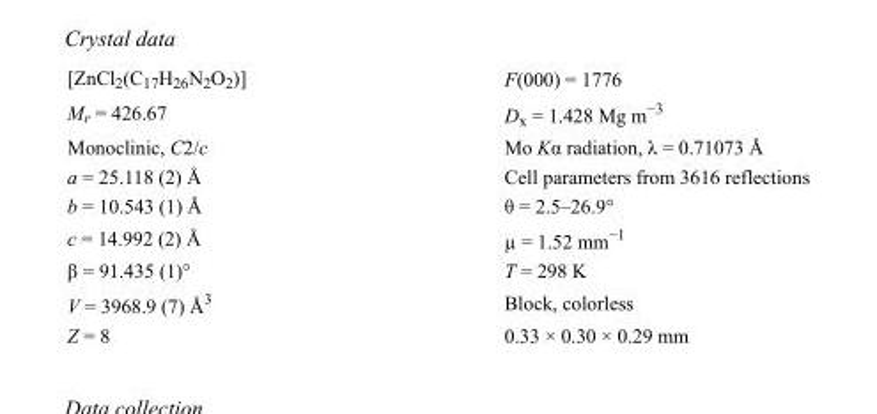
<table><tbody><tr><td>[ZnCl<sub>2</sub>(C<sub>17</sub>H<sub>26</sub>N<sub>2</sub>O<sub>2</sub>)]</td><td>F(000) = 1776</td></tr><tr><td>M<sub>r</sub> = 426.67</td><td>D<sub>x</sub> = 1.428 Mg m<sup>−3</sup></td></tr><tr><td>Monoclinic, C2/c</td><td>Mo Kα radiation, λ = 0.71073 Å</td></tr><tr><td>a = 25.118 (2) Å</td><td>Cell parameters from 3616 reflections</td></tr><tr><td>b = 10.543 (1) Å</td><td>θ = 2.5–26.9°</td></tr><tr><td>c = 14.992 (2) Å</td><td>µ = 1.52 mm<sup>−1</sup></td></tr><tr><td>β = 91.435 (1)°</td><td>T = 298 K</td></tr><tr><td>V = 3968.9 (7) Å<sup>3</sup></td><td>Block, colorless</td></tr><tr><td>Z = 8</td><td>0.33 × 0.30 × 0.29 mm</td></tr></tbody></table>